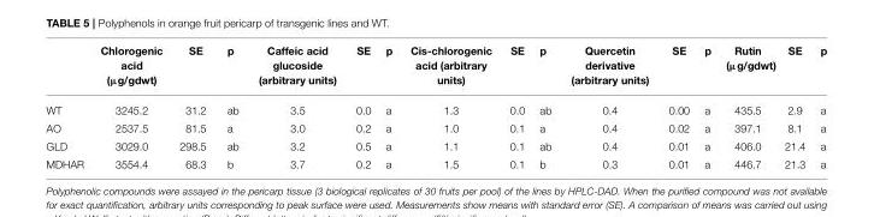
<table><thead><tr><td></td><td>Chlorogenic acid (µg/gdwt)</td><td>SE</td><td>p</td><td>Caffeic acid glucoside (arbitrary units)</td><td>SE</td><td>p</td><td>Cis-chlorogenic acid (arbitrary units)</td><td>SE</td><td>p</td><td>Quercetin derivative (arbitrary units)</td><td>SE</td><td>p</td><td>Rutin (µg/gdwt)</td><td>SE</td><td>p</td></tr></thead><tbody><tr><td>WT</td><td>3245.2</td><td>31.2</td><td>ab</td><td>3.5</td><td>0.0</td><td>a</td><td>1.3</td><td>0.0</td><td>ab</td><td>0.4</td><td>0.00</td><td>a</td><td>435.5</td><td>2.9</td><td>a</td></tr><tr><td>AO</td><td>2537.5</td><td>81.5</td><td>a</td><td>3.0</td><td>0.2</td><td>a</td><td>1.0</td><td>0.1</td><td>a</td><td>0.4</td><td>0.02</td><td>a</td><td>397.1</td><td>8.1</td><td>a</td></tr><tr><td>GLD</td><td>3029.0</td><td>298.5</td><td>ab</td><td>3.2</td><td>0.5</td><td>a</td><td>1.1</td><td>0.1</td><td>ab</td><td>0.4</td><td>0.01</td><td>a</td><td>406.0</td><td>21.4</td><td>a</td></tr><tr><td>MDHAR</td><td>3554.4</td><td>68.3</td><td>b</td><td>3.7</td><td>0.2</td><td>a</td><td>1.5</td><td>0.1</td><td>b</td><td>0.3</td><td>0.01</td><td>a</td><td>446.7</td><td>21.3</td><td>a</td></tr></tbody></table>